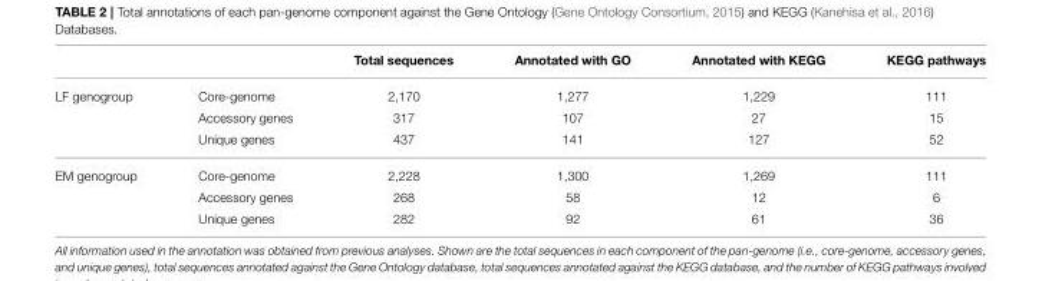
<table><thead><tr><td></td><td></td><td>Total sequences</td><td>Annotated with GO</td><td>Annotated with KEGG</td><td>KEGG pathways</td></tr></thead><tbody><tr><td rowspan="3">LF genogroup</td><td>Core-genome</td><td>2,170</td><td>1,277</td><td>1,229</td><td>111</td></tr><tr><td>Accessory genes</td><td>317</td><td>107</td><td>27</td><td>15</td></tr><tr><td>Unique genes</td><td>437</td><td>141</td><td>127</td><td>52</td></tr><tr><td rowspan="3">EM genogroup</td><td>Core-genome</td><td>2,228</td><td>1,300</td><td>1,269</td><td>111</td></tr><tr><td>Accessory genes</td><td>268</td><td>58</td><td>12</td><td>6</td></tr><tr><td>Unique genes</td><td>282</td><td>92</td><td>61</td><td>36</td></tr></tbody></table>